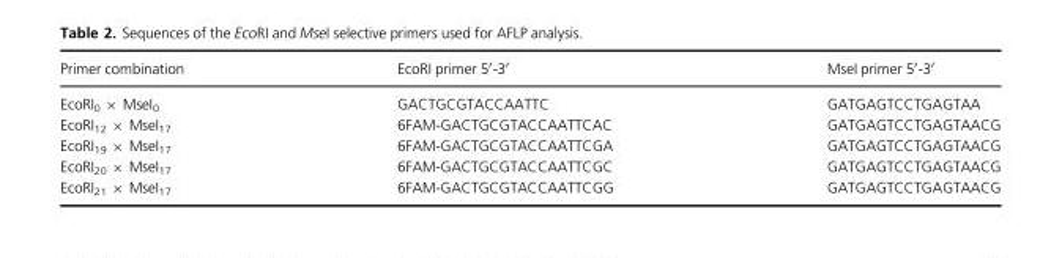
<table><thead><tr><td>Primer combination</td><td>EcoRI primer 5′-3′</td><td>MseI primer 5′-3′</td></tr></thead><tbody><tr><td>EcoRI<sub>0</sub> × MseI<sub>0</sub></td><td>GACTGCGTACCAATTC</td><td>GATGAGTCCTGAGTAA</td></tr><tr><td>EcoRI<sub>12</sub> × MseI<sub>17</sub></td><td>6FAM-GACTGCGTACCAATTCAC</td><td>GATGAGTCCTGAGTAACG</td></tr><tr><td>EcoRI<sub>19</sub> × MseI<sub>17</sub></td><td>6FAM-GACTGCGTACCAATTCGA</td><td>GATGAGTCCTGAGTAACG</td></tr><tr><td>EcoRI<sub>20</sub> × MseI<sub>17</sub></td><td>6FAM-GACTGCGTACCAATTCGC</td><td>GATGAGTCCTGAGTAACG</td></tr><tr><td>EcoRI<sub>21</sub> × MseI<sub>17</sub></td><td>6FAM-GACTGCGTACCAATTCGG</td><td>GATGAGTCCTGAGTAACG</td></tr></tbody></table>